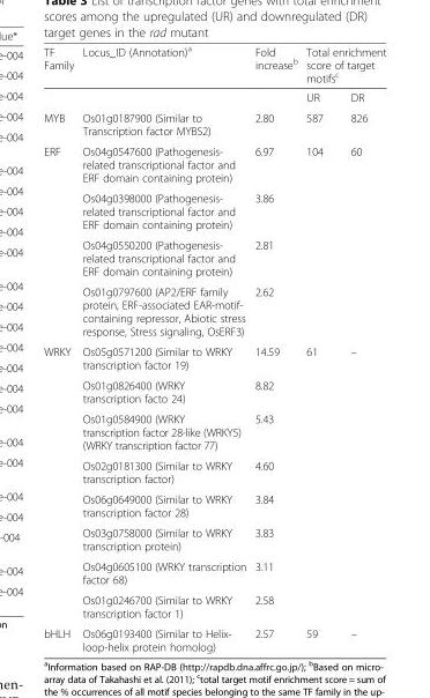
<table><thead><tr><td rowspan="2">TF Family</td><td rowspan="2">Locus_ID (Annotation)<sup>a</sup></td><td rowspan="2">Fold increase<sup>b</sup></td><td colspan="2">Total enrichment score of target motifs<sup>c</sup></td></tr><tr><td>UR</td><td>DR</td></tr></thead><tbody><tr><td>MYB</td><td>Os01g0187900 (Similar to Transcription factor MYBS2)</td><td>2.80</td><td>587</td><td>826</td></tr><tr><td rowspan="4">ERF</td><td>Os04g0547600 (Pathogenesis- related transcriptional factor and ERF domain containing protein)</td><td>6.97</td><td>104</td><td>60</td></tr><tr><td>Os04g0398000 (Pathogenesis- related transcriptional factor and ERF domain containing protein)</td><td>3.86</td><td></td><td></td></tr><tr><td>Os04g0550200 (Pathogenesis- related transcriptional factor and ERF domain containing protein)</td><td>2.81</td><td></td><td></td></tr><tr><td>Os01g0797600 (AP2/ERF family protein, ERF-associated EAR-motif- containing repressor, Abiotic stress response, Stress signaling, OsERF3)</td><td>2.62</td><td></td><td></td></tr><tr><td rowspan="8">WRKY</td><td>Os05g0571200 (Similar to WRKY transcription factor 19)</td><td>14.59</td><td>61</td><td>–</td></tr><tr><td>Os01g0826400 (WRKY transcription facto 24)</td><td>8.82</td><td></td><td></td></tr><tr><td>Os01g0584900 (WRKY transcription factor 28-like (WRKY5) (WRKY transcription factor 77)</td><td>5.43</td><td></td><td></td></tr><tr><td>Os02g0181300 (Similar to WRKY transcription factor)</td><td>4.60</td><td></td><td></td></tr><tr><td>Os06g0649000 (Similar to WRKY transcription factor 28)</td><td>3.84</td><td></td><td></td></tr><tr><td>Os03g0758000 (Similar to WRKY transcription protein)</td><td>3.83</td><td></td><td></td></tr><tr><td>Os04g0605100 (WRKY transcription factor 68)</td><td>3.11</td><td></td><td></td></tr><tr><td>Os01g0246700 (Similar to WRKY transcription factor 1)</td><td>2.58</td><td></td><td></td></tr><tr><td>bHLH</td><td>Os06g0193400 (Similar to Helix- loop-helix protein homolog)</td><td>2.57</td><td>59</td><td>–</td></tr></tbody></table>